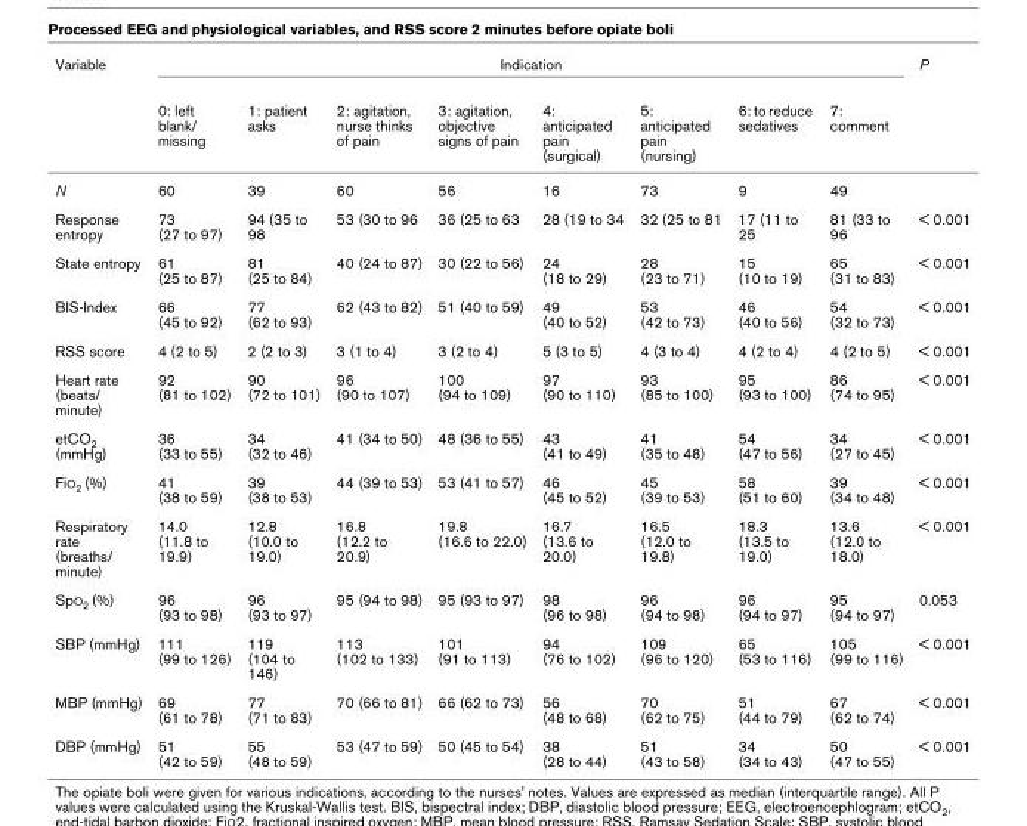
<table><thead><tr><td rowspan="2">Variable</td><td colspan="8">Indication</td><td rowspan="2">P</td></tr><tr><td>0: left blank/ missing</td><td>1: patient asks</td><td>2: agitation, nurse thinks of pain</td><td>3: agitation, objective signs of pain</td><td>4: anticipated pain (surgical)</td><td>5: anticipated pain (nursing)</td><td>6: to reduce sedatives</td><td>7: comment</td></tr></thead><tbody><tr><td>N</td><td>60</td><td>39</td><td>60</td><td>56</td><td>16</td><td>73</td><td>9</td><td>49</td><td></td></tr><tr><td>Response entropy</td><td>73 (27 to 97)</td><td>94 (35 to 98</td><td>53 (30 to 96</td><td>36 (25 to 63</td><td>28 (19 to 34</td><td>32 (25 to 81</td><td>17 (11 to 25</td><td>81 (33 to 96</td><td>&lt; 0.001</td></tr><tr><td>State entropy</td><td>61 (25 to 87)</td><td>81 (25 to 84)</td><td>40 (24 to 87)</td><td>30 (22 to 56)</td><td>24 (18 to 29)</td><td>28 (23 to 71)</td><td>15 (10 to 19)</td><td>65 (31 to 83)</td><td>&lt; 0.001</td></tr><tr><td>BIS-Index</td><td>66 (45 to 92)</td><td>77 (62 to 93)</td><td>62 (43 to 82)</td><td>51 (40 to 59)</td><td>49 (40 to 52)</td><td>53 (42 to 73)</td><td>46 (40 to 56)</td><td>54 (32 to 73)</td><td>&lt; 0.001</td></tr><tr><td>RSS score</td><td>4 (2 to 5)</td><td>2 (2 to 3)</td><td>3 (1 to 4)</td><td>3 (2 to 4)</td><td>5 (3 to 5)</td><td>4 (3 to 4)</td><td>4 (2 to 4)</td><td>4 (2 to 5)</td><td>&lt; 0.001</td></tr><tr><td>Heart rate (beats/ minute)</td><td>92 (81 to 102)</td><td>90 (72 to 101)</td><td>96 (90 to 107)</td><td>100 (94 to 109)</td><td>97 (90 to 110)</td><td>93 (85 to 100)</td><td>95 (93 to 100)</td><td>86 (74 to 95)</td><td>&lt; 0.001</td></tr><tr><td>etCO<sub>2</sub> (mmHg)</td><td>36 (33 to 55)</td><td>34 (32 to 46)</td><td>41 (34 to 50)</td><td>48 (36 to 55)</td><td>43 (41 to 49)</td><td>41 (35 to 48)</td><td>54 (47 to 56)</td><td>34 (27 to 45)</td><td>&lt; 0.001</td></tr><tr><td>FiO<sub>2</sub> (%)</td><td>41 (38 to 59)</td><td>39 (38 to 53)</td><td>44 (39 to 53)</td><td>53 (41 to 57)</td><td>46 (45 to 52)</td><td>45 (39 to 53)</td><td>58 (51 to 60)</td><td>39 (34 to 48)</td><td>&lt; 0.001</td></tr><tr><td>Respiratory rate (breaths/ minute)</td><td>14.0 (11.8 to 19.9)</td><td>12.8 (10.0 to 19.0)</td><td>16.8 (12.2 to 20.9)</td><td>19.8 (16.6 to 22.0)</td><td>16.7 (13.6 to 20.0)</td><td>16.5 (12.0 to 19.8)</td><td>18.3 (13.5 to 19.0)</td><td>13.6 (12.0 to 18.0)</td><td>&lt; 0.001</td></tr><tr><td>SpO<sub>2</sub> (%)</td><td>96 (93 to 98)</td><td>96 (93 to 97)</td><td>95 (94 to 98)</td><td>95 (93 to 97)</td><td>98 (96 to 98)</td><td>96 (94 to 98)</td><td>96 (94 to 97)</td><td>95 (94 to 97)</td><td>0.053</td></tr><tr><td>SBP (mmHg)</td><td>111 (99 to 126)</td><td>119 (104 to 146)</td><td>113 (102 to 133)</td><td>101 (91 to 113)</td><td>94 (76 to 102)</td><td>109 (96 to 120)</td><td>65 (53 to 116)</td><td>105 (99 to 116)</td><td>&lt; 0.001</td></tr><tr><td>MBP (mmHg)</td><td>69 (61 to 78)</td><td>77 (71 to 83)</td><td>70 (66 to 81)</td><td>66 (62 to 73)</td><td>56 (48 to 68)</td><td>70 (62 to 75)</td><td>51 (44 to 79)</td><td>67 (62 to 74)</td><td>&lt; 0.001</td></tr><tr><td>DBP (mmHg)</td><td>51 (42 to 59)</td><td>55 (48 to 59)</td><td>53 (47 to 59)</td><td>50 (45 to 54)</td><td>38 (28 to 44)</td><td>51 (43 to 58)</td><td>34 (34 to 43)</td><td>50 (47 to 55)</td><td>&lt; 0.001</td></tr></tbody></table>